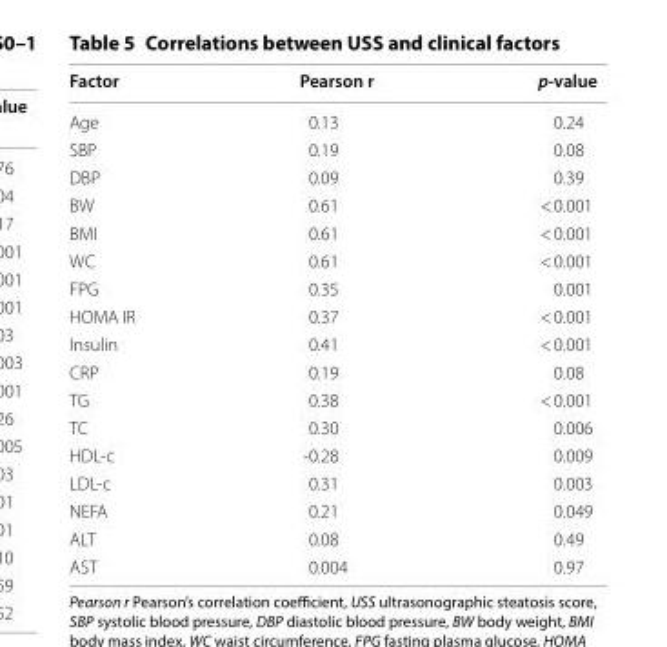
<table><thead><tr><td>Factor</td><td>Pearson r</td><td>p-value</td></tr></thead><tbody><tr><td>Age</td><td>0.13</td><td>0.24</td></tr><tr><td>SBP</td><td>0.19</td><td>0.08</td></tr><tr><td>DBP</td><td>0.09</td><td>0.39</td></tr><tr><td>BW</td><td>0.61</td><td>&lt; 0.001</td></tr><tr><td>BMI</td><td>0.61</td><td>&lt; 0.001</td></tr><tr><td>WC</td><td>0.61</td><td>&lt; 0.001</td></tr><tr><td>FPG</td><td>0.35</td><td>0.001</td></tr><tr><td>HOMA IR</td><td>0.37</td><td>&lt; 0.001</td></tr><tr><td>Insulin</td><td>0.41</td><td>&lt; 0.001</td></tr><tr><td>CRP</td><td>0.19</td><td>0.08</td></tr><tr><td>TG</td><td>0.38</td><td>&lt; 0.001</td></tr><tr><td>TC</td><td>0.30</td><td>0.006</td></tr><tr><td>HDL‑c</td><td>‑0.28</td><td>0.009</td></tr><tr><td>LDL‑c</td><td>0.31</td><td>0.003</td></tr><tr><td>NEFA</td><td>0.21</td><td>0.049</td></tr><tr><td>ALT</td><td>0.08</td><td>0.49</td></tr><tr><td>AST</td><td>0.004</td><td>0.97</td></tr></tbody></table>